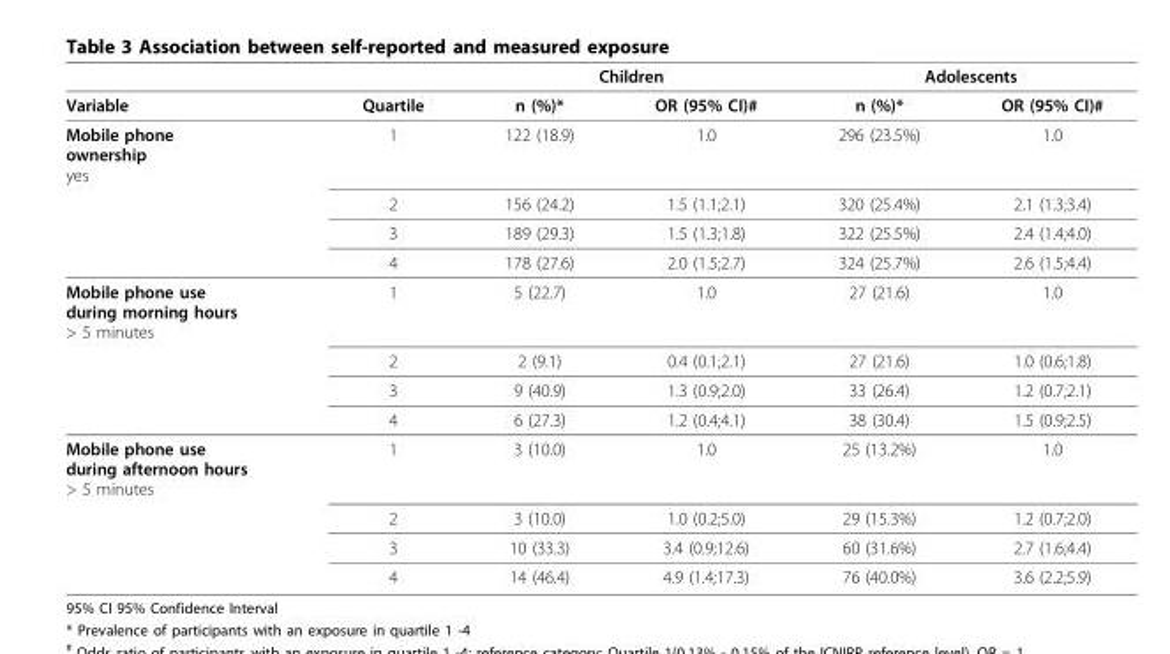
<table><thead><tr><td rowspan="2">Variable</td><td rowspan="2">Quartile</td><td colspan="2">Children</td><td colspan="2">Adolescents</td></tr><tr><td>n (%)*</td><td>OR (95% CI)#</td><td>n (%)*</td><td>OR (95% CI)#</td></tr></thead><tbody><tr><td rowspan="4">Mobile phone ownership yes</td><td>1</td><td>122 (18.9)</td><td>1.0</td><td>296 (23.5%)</td><td>1.0</td></tr><tr><td>2</td><td>156 (24.2)</td><td>1.5 (1.1;2.1)</td><td>320 (25.4%)</td><td>2.1 (1.3;3.4)</td></tr><tr><td>3</td><td>189 (29.3)</td><td>1.5 (1.3;1.8)</td><td>322 (25.5%)</td><td>2.4 (1.4;4.0)</td></tr><tr><td>4</td><td>178 (27.6)</td><td>2.0 (1.5;2.7)</td><td>324 (25.7%)</td><td>2.6 (1.5;4.4)</td></tr><tr><td rowspan="4">Mobile phone use during morning hours &gt; 5 minutes</td><td>1</td><td>5 (22.7)</td><td>1.0</td><td>27 (21.6)</td><td>1.0</td></tr><tr><td>2</td><td>2 (9.1)</td><td>0.4 (0.1;2.1)</td><td>27 (21.6)</td><td>1.0 (0.6;1.8)</td></tr><tr><td>3</td><td>9 (40.9)</td><td>1.3 (0.9;2.0)</td><td>33 (26.4)</td><td>1.2 (0.7;2.1)</td></tr><tr><td>4</td><td>6 (27.3)</td><td>1.2 (0.4;4.1)</td><td>38 (30.4)</td><td>1.5 (0.9;2.5)</td></tr><tr><td rowspan="4">Mobile phone use during afternoon hours &gt; 5 minutes</td><td>1</td><td>3 (10.0)</td><td>1.0</td><td>25 (13.2%)</td><td>1.0</td></tr><tr><td>2</td><td>3 (10.0)</td><td>1.0 (0.2;5.0)</td><td>29 (15.3%)</td><td>1.2 (0.7;2.0)</td></tr><tr><td>3</td><td>10 (33.3)</td><td>3.4 (0.9;12.6)</td><td>60 (31.6%)</td><td>2.7 (1.6;4.4)</td></tr><tr><td>4</td><td>14 (46.4)</td><td>4.9 (1.4;17.3)</td><td>76 (40.0%)</td><td>3.6 (2.2;5.9)</td></tr></tbody></table>